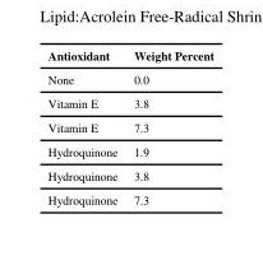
<table><thead><tr><td>Antioxidant</td><td>Weight Percent</td></tr></thead><tbody><tr><td>None</td><td>0.0</td></tr><tr><td>Vitamin E</td><td>3.8</td></tr><tr><td>Vitamin E</td><td>7.3</td></tr><tr><td>Hydroquinone</td><td>1.9</td></tr><tr><td>Hydroquinone</td><td>3.8</td></tr><tr><td>Hydroquinone</td><td>7.3</td></tr></tbody></table>